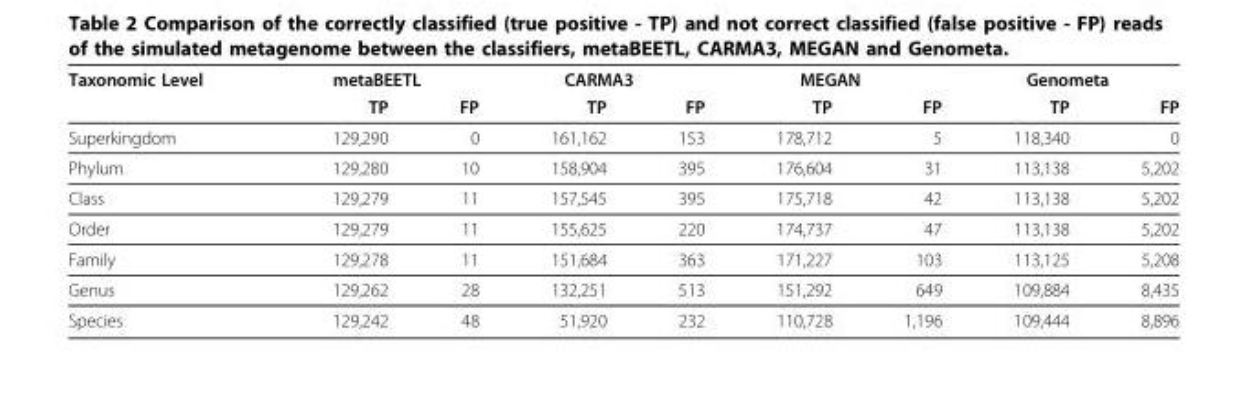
<table><thead><tr><td rowspan="2">Taxonomic Level</td><td colspan="2">metaBEETL</td><td colspan="2">CARMA3</td><td colspan="2">MEGAN</td><td colspan="2">Genometa</td></tr><tr><td>TP</td><td>FP</td><td>TP</td><td>FP</td><td>TP</td><td>FP</td><td>TP</td><td>FP</td></tr></thead><tbody><tr><td>Superkingdom</td><td>129,290</td><td>0</td><td>161,162</td><td>153</td><td>178,712</td><td>5</td><td>118,340</td><td>0</td></tr><tr><td>Phylum</td><td>129,280</td><td>10</td><td>158,904</td><td>395</td><td>176,604</td><td>31</td><td>113,138</td><td>5,202</td></tr><tr><td>Class</td><td>129,279</td><td>11</td><td>157,545</td><td>395</td><td>175,718</td><td>42</td><td>113,138</td><td>5,202</td></tr><tr><td>Order</td><td>129,279</td><td>11</td><td>155,625</td><td>220</td><td>174,737</td><td>47</td><td>113,138</td><td>5,202</td></tr><tr><td>Family</td><td>129,278</td><td>11</td><td>151,684</td><td>363</td><td>171,227</td><td>103</td><td>113,125</td><td>5,208</td></tr><tr><td>Genus</td><td>129,262</td><td>28</td><td>132,251</td><td>513</td><td>151,292</td><td>649</td><td>109,884</td><td>8,435</td></tr><tr><td>Species</td><td>129,242</td><td>48</td><td>51,920</td><td>232</td><td>110,728</td><td>1,196</td><td>109,444</td><td>8,896</td></tr></tbody></table>